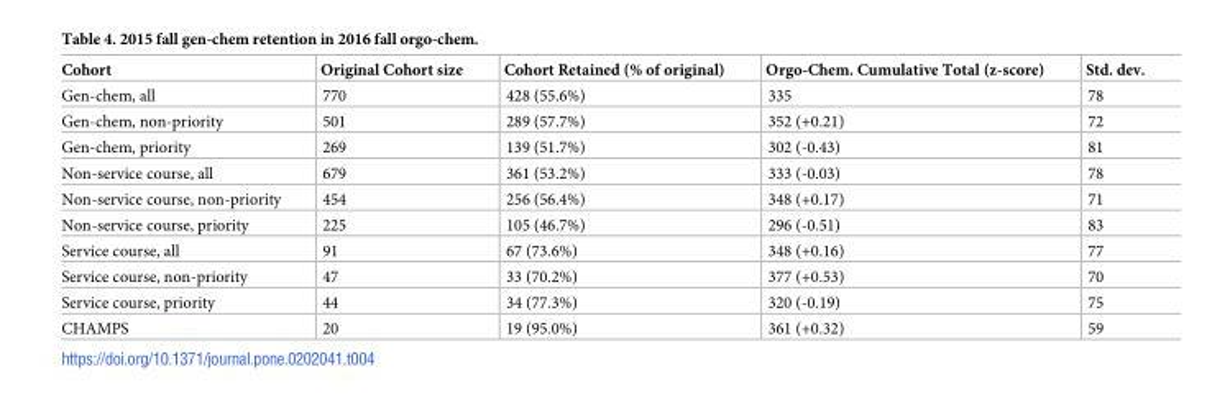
<table><thead><tr><td>Cohort</td><td>Original Cohort size</td><td>Cohort Retained (% of original)</td><td>Orgo-Chem. Cumulative Total (z-score)</td><td>Std. dev.</td></tr></thead><tbody><tr><td>Gen-chem, all</td><td>770</td><td>428 (55.6%)</td><td>335</td><td>78</td></tr><tr><td>Gen-chem, non-priority</td><td>501</td><td>289 (57.7%)</td><td>352 (+0.21)</td><td>72</td></tr><tr><td>Gen-chem, priority</td><td>269</td><td>139 (51.7%)</td><td>302 (-0.43)</td><td>81</td></tr><tr><td>Non-service course, all</td><td>679</td><td>361 (53.2%)</td><td>333 (-0.03)</td><td>78</td></tr><tr><td>Non-service course, non-priority</td><td>454</td><td>256 (56.4%)</td><td>348 (+0.17)</td><td>71</td></tr><tr><td>Non-service course, priority</td><td>225</td><td>105 (46.7%)</td><td>296 (-0.51)</td><td>83</td></tr><tr><td>Service course, all</td><td>91</td><td>67 (73.6%)</td><td>348 (+0.16)</td><td>77</td></tr><tr><td>Service course, non-priority</td><td>47</td><td>33 (70.2%)</td><td>377 (+0.53)</td><td>70</td></tr><tr><td>Service course, priority</td><td>44</td><td>34 (77.3%)</td><td>320 (-0.19)</td><td>75</td></tr><tr><td>CHAMPS</td><td>20</td><td>19 (95.0%)</td><td>361 (+0.32)</td><td>59</td></tr></tbody></table>